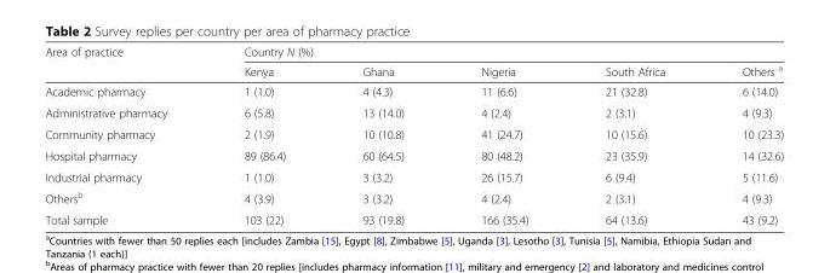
<table><thead><tr><td rowspan="2">Area of practice</td><td colspan="5">Country N (%)</td></tr><tr><td>Kenya</td><td>Ghana</td><td>Nigeria</td><td>South Africa</td><td>Others <sup>a</sup></td></tr></thead><tbody><tr><td>Academic pharmacy</td><td>1 (1.0)</td><td>4 (4.3)</td><td>11 (6.6)</td><td>21 (32.8)</td><td>6 (14.0)</td></tr><tr><td>Administrative pharmacy</td><td>6 (5.8)</td><td>13 (14.0)</td><td>4 (2.4)</td><td>2 (3.1)</td><td>4 (9.3)</td></tr><tr><td>Community pharmacy</td><td>2 (1.9)</td><td>10 (10.8)</td><td>41 (24.7)</td><td>10 (15.6)</td><td>10 (23.3)</td></tr><tr><td>Hospital pharmacy</td><td>89 (86.4)</td><td>60 (64.5)</td><td>80 (48.2)</td><td>23 (35.9)</td><td>14 (32.6)</td></tr><tr><td>Industrial pharmacy</td><td>1 (1.0)</td><td>3 (3.2)</td><td>26 (15.7)</td><td>6 (9.4)</td><td>5 (11.6)</td></tr><tr><td>Others<sup>b</sup></td><td>4 (3.9)</td><td>3 (3.2)</td><td>4 (2.4)</td><td>2 (3.1)</td><td>4 (9.3)</td></tr><tr><td>Total sample</td><td>103 (22)</td><td>93 (19.8)</td><td>166 (35.4)</td><td>64 (13.6)</td><td>43 (9.2)</td></tr></tbody></table>